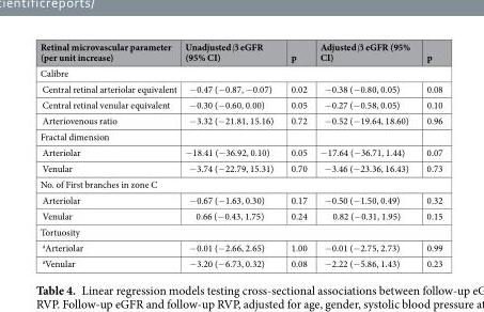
<table><thead><tr><td>Retinal microvascular parameter (per unit increase)</td><td>Unadjusted β eGFR (95% CI)</td><td>p</td><td>Adjusted β eGFR (95% CI)</td><td>p</td></tr></thead><tbody><tr><td colspan="5">Calibre</td></tr><tr><td>Central retinal arteriolar equivalent</td><td>−0.47 (−0.87, −0.07)</td><td>0.02</td><td>−0.38 (−0.80, 0.05)</td><td>0.08</td></tr><tr><td>Central retinal venular equivalent</td><td>−0.30 (−0.60, 0.00)</td><td>0.05</td><td>−0.27 (−0.58, 0.05)</td><td>0.10</td></tr><tr><td>Arteriovenous ratio</td><td>−3.32 (−21.81, 15.16)</td><td>0.72</td><td>−0.52 (−19.64, 18.60)</td><td>0.96</td></tr><tr><td colspan="5">Fractal dimension</td></tr><tr><td>Arteriolar</td><td>−18.41 (−36.92, 0.10)</td><td>0.05</td><td>−17.64 (−36.71, 1.44)</td><td>0.07</td></tr><tr><td>Venular</td><td>−3.74 (−22.79, 15.31)</td><td>0.70</td><td>−3.46 (−23.36, 16.43)</td><td>0.73</td></tr><tr><td colspan="5">No. of First branches in zone C</td></tr><tr><td>Arteriolar</td><td>−0.67 (−1.63, 0.30)</td><td>0.17</td><td>−0.50 (−1.50, 0.49)</td><td>0.32</td></tr><tr><td>Venular</td><td>0.66 (−0.43, 1.75)</td><td>0.24</td><td>0.82 (−0.31, 1.95)</td><td>0.15</td></tr><tr><td colspan="5">Tortuosity</td></tr><tr><td><sup>a</sup>Arteriolar</td><td>−0.01 (−2.66, 2.65)</td><td>1.00</td><td>−0.01 (−2.75, 2.73)</td><td>0.99</td></tr><tr><td><sup>a</sup>Venular</td><td>−3.20 (−6.73, 0.32)</td><td>0.08</td><td>−2.22 (−5.86, 1.43)</td><td>0.23</td></tr></tbody></table>